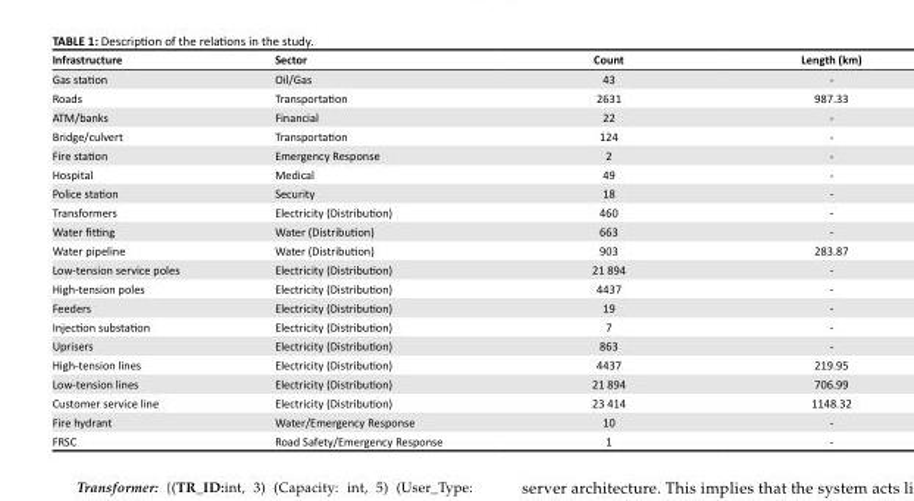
<table><thead><tr><td>Infrastructure</td><td>Sector</td><td>Count</td><td>Length (km)</td></tr></thead><tbody><tr><td>Gas station</td><td>Oil/Gas</td><td>43</td><td>-</td></tr><tr><td>Roads</td><td>Transportation</td><td>2631</td><td>987.33</td></tr><tr><td>ATM/banks</td><td>Financial</td><td>22</td><td>-</td></tr><tr><td>Bridge/culvert</td><td>Transportation</td><td>124</td><td>-</td></tr><tr><td>Fire station</td><td>Emergency Response</td><td>2</td><td>-</td></tr><tr><td>Hospital</td><td>Medical</td><td>49</td><td>-</td></tr><tr><td>Police station</td><td>Security</td><td>18</td><td>-</td></tr><tr><td>Transformers</td><td>Electricity (Distribution)</td><td>460</td><td>-</td></tr><tr><td>Water fitting</td><td>Water (Distribution)</td><td>663</td><td>-</td></tr><tr><td>Water pipeline</td><td>Water (Distribution)</td><td>903</td><td>283.87</td></tr><tr><td>Low-tension service poles</td><td>Electricity (Distribution)</td><td>21 894</td><td>-</td></tr><tr><td>High-tension poles</td><td>Electricity (Distribution)</td><td>4437</td><td>-</td></tr><tr><td>Feeders</td><td>Electricity (Distribution)</td><td>19</td><td>-</td></tr><tr><td>Injection substation</td><td>Electricity (Distribution)</td><td>7</td><td>-</td></tr><tr><td>Uprisers</td><td>Electricity (Distribution)</td><td>863</td><td>-</td></tr><tr><td>High-tension lines</td><td>Electricity (Distribution)</td><td>4437</td><td>219.95</td></tr><tr><td>Low-tension lines</td><td>Electricity (Distribution)</td><td>21 894</td><td>706.99</td></tr><tr><td>Customer service line</td><td>Electricity (Distribution)</td><td>23 414</td><td>1148.32</td></tr><tr><td>Fire hydrant</td><td>Water/Emergency Response</td><td>10</td><td>-</td></tr><tr><td>FRSC</td><td>Road Safety/Emergency Response</td><td>1</td><td>-</td></tr></tbody></table>